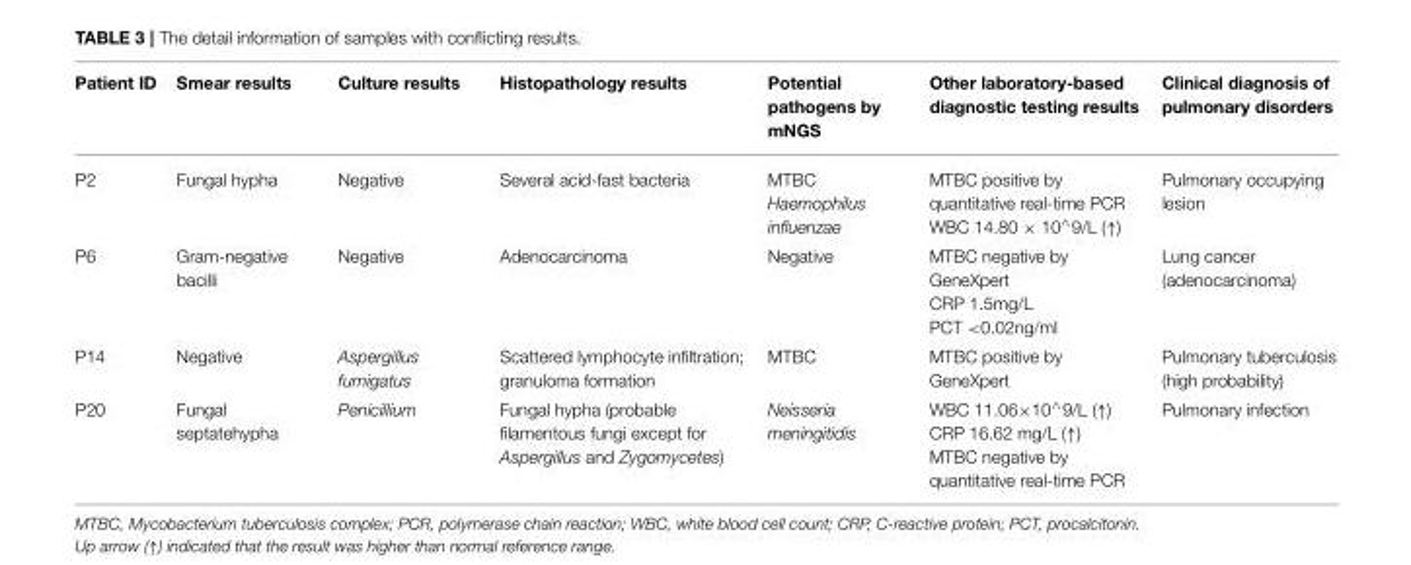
<table><thead><tr><td>Patient ID</td><td>Smear results</td><td>Culture results</td><td>Histopathology results</td><td>Potential pathogens by mNGS</td><td>Other laboratory-based diagnostic testing results</td><td>Clinical diagnosis of pulmonary disorders</td></tr></thead><tbody><tr><td>P2</td><td>Fungal hypha</td><td>Negative</td><td>Several acid-fast bacteria</td><td>MTBC Haemophilus influenzae</td><td>MTBC positive by quantitative real-time PCR WBC 14.80 × 10<sup>∧</sup>9/L (↑)</td><td>Pulmonary occupying lesion</td></tr><tr><td>P6</td><td>Gram-negative bacilli</td><td>Negative</td><td>Adenocarcinoma</td><td>Negative</td><td>MTBC negative by GeneXpert CRP 1.5mg/L PCT &lt;0.02ng/ml</td><td>Lung cancer (adenocarcinoma)</td></tr><tr><td>P14</td><td>Negative</td><td>Aspergillus fumigatus</td><td>Scattered lymphocyte infiltration; granuloma formation</td><td>MTBC</td><td>MTBC positive by GeneXpert</td><td>Pulmonary tuberculosis (high probability)</td></tr><tr><td>P20</td><td>Fungal septatehypha</td><td>Penicillium</td><td>Fungal hypha (probable filamentous fungi except for Aspergillus and Zygomycetes)</td><td>Neisseria meningitidis</td><td>WBC 11.06×10<sup>∧</sup>9/L (↑) CRP 16.62 mg/L (↑) MTBC negative by quantitative real-time PCR</td><td>Pulmonary infection</td></tr></tbody></table>